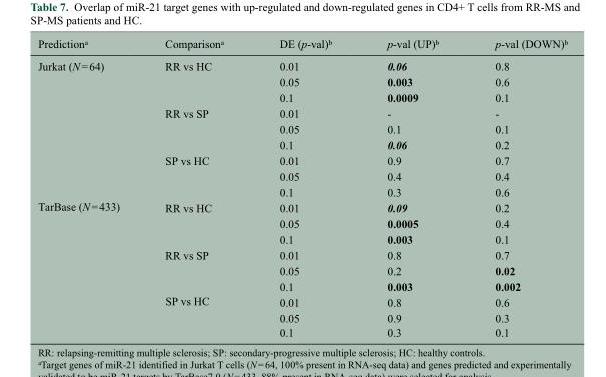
<table><thead><tr><td>Prediction<sup>a</sup></td><td>Comparison<sup>a</sup></td><td>DE (p-val)<sup>b</sup></td><td>p-val (UP)<sup>b</sup></td><td>p-val (DOWN)<sup>b</sup></td></tr></thead><tbody><tr><td rowspan="9">Jurkat (N = 64)</td><td rowspan="3">RR vs HC</td><td>0.01</td><td>0.06</td><td>0.8</td></tr><tr><td>0.05</td><td>0.003</td><td>0.6</td></tr><tr><td>0.1</td><td>0.0009</td><td>0.1</td></tr><tr><td rowspan="3">RR vs SP</td><td>0.01</td><td>-</td><td>-</td></tr><tr><td>0.05</td><td>0.1</td><td>0.1</td></tr><tr><td>0.1</td><td>0.06</td><td>0.2</td></tr><tr><td rowspan="3">SP vs HC</td><td>0.01</td><td>0.9</td><td>0.7</td></tr><tr><td>0.05</td><td>0.4</td><td>0.4</td></tr><tr><td>0.1</td><td>0.3</td><td>0.6</td></tr><tr><td rowspan="9">TarBase (N = 433)</td><td rowspan="3">RR vs HC</td><td>0.01</td><td>0.09</td><td>0.2</td></tr><tr><td>0.05</td><td>0.0005</td><td>0.4</td></tr><tr><td>0.1</td><td>0.003</td><td>0.1</td></tr><tr><td rowspan="3">RR vs SP</td><td>0.01</td><td>0.8</td><td>0.7</td></tr><tr><td>0.05</td><td>0.2</td><td>0.02</td></tr><tr><td>0.1</td><td>0.003</td><td>0.002</td></tr><tr><td rowspan="3">SP vs HC</td><td>0.01</td><td>0.8</td><td>0.6</td></tr><tr><td>0.05</td><td>0.9</td><td>0.3</td></tr><tr><td>0.1</td><td>0.3</td><td>0.1</td></tr></tbody></table>